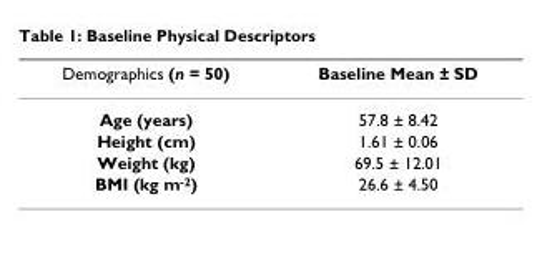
<table><thead><tr><td>Demographics (n = 50)</td><td>Baseline Mean ± SD</td></tr></thead><tbody><tr><td>Age (years)</td><td>57.8 ± 8.42</td></tr><tr><td>Height (cm)</td><td>1.61 ± 0.06</td></tr><tr><td>Weight (kg)</td><td>69.5 ± 12.01</td></tr><tr><td>BMI (kg m<sup>-2</sup>)</td><td>26.6 ± 4.50</td></tr></tbody></table>